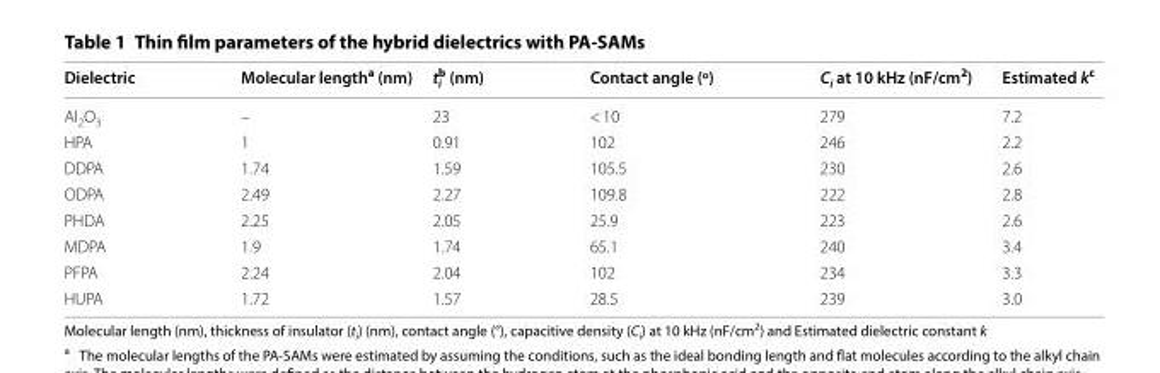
<table><thead><tr><td>Dielectric</td><td>Molecular length<sup>a</sup> (nm)</td><td>t<sub>i</sub> <sup>b</sup> (nm)</td><td>Contact angle (º)</td><td>C<sub>i</sub> at 10 kHz (nF/cm<sup>2</sup>)</td><td>Estimated k<sup>c</sup></td></tr></thead><tbody><tr><td>Al<sub>2</sub>O<sub>3</sub></td><td>–</td><td>23</td><td>&lt; 10</td><td>279</td><td>7.2</td></tr><tr><td>HPA</td><td>1</td><td>0.91</td><td>102</td><td>246</td><td>2.2</td></tr><tr><td>DDPA</td><td>1.74</td><td>1.59</td><td>105.5</td><td>230</td><td>2.6</td></tr><tr><td>ODPA</td><td>2.49</td><td>2.27</td><td>109.8</td><td>222</td><td>2.8</td></tr><tr><td>PHDA</td><td>2.25</td><td>2.05</td><td>25.9</td><td>223</td><td>2.6</td></tr><tr><td>MDPA</td><td>1.9</td><td>1.74</td><td>65.1</td><td>240</td><td>3.4</td></tr><tr><td>PFPA</td><td>2.24</td><td>2.04</td><td>102</td><td>234</td><td>3.3</td></tr><tr><td>HUPA</td><td>1.72</td><td>1.57</td><td>28.5</td><td>239</td><td>3.0</td></tr></tbody></table>